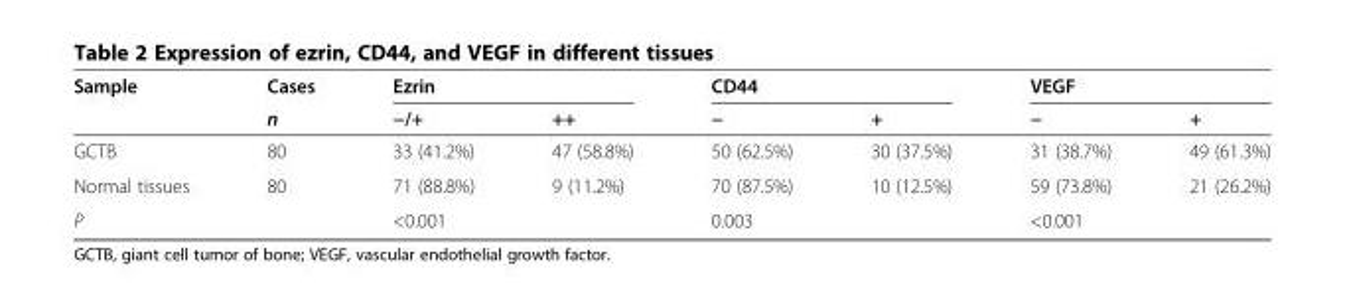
<table><thead><tr><td rowspan="2">Sample</td><td rowspan="2">Cases n</td><td colspan="2">Ezrin</td><td colspan="2">CD44</td><td colspan="2">VEGF</td></tr><tr><td>−/+</td><td>++</td><td>−</td><td>+</td><td>−</td><td>+</td></tr></thead><tbody><tr><td>GCTB</td><td>80</td><td>33 (41.2%)</td><td>47 (58.8%)</td><td>50 (62.5%)</td><td>30 (37.5%)</td><td>31 (38.7%)</td><td>49 (61.3%)</td></tr><tr><td>Normal tissues</td><td>80</td><td>71 (88.8%)</td><td>9 (11.2%)</td><td>70 (87.5%)</td><td>10 (12.5%)</td><td>59 (73.8%)</td><td>21 (26.2%)</td></tr><tr><td colspan="2">P</td><td colspan="2">&lt;0.001</td><td colspan="2">0.003</td><td colspan="2">&lt;0.001</td></tr></tbody></table>